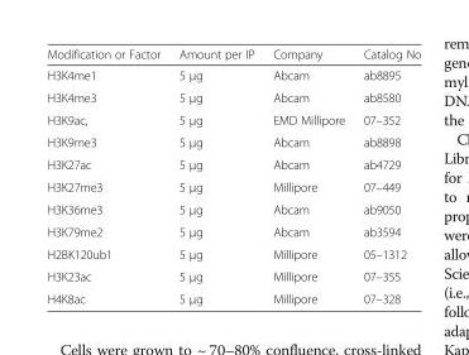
<table><thead><tr><td>Modification or Factor</td><td>Amount per IP</td><td>Company</td><td>Catalog No</td></tr></thead><tbody><tr><td>H3K4me1</td><td>5 μg</td><td>Abcam</td><td>ab8895</td></tr><tr><td>H3K4me3</td><td>5 μg</td><td>Abcam</td><td>ab8580</td></tr><tr><td>H3K9ac,</td><td>5 μg</td><td>EMD Millipore</td><td>07–352</td></tr><tr><td>H3K9me3</td><td>5 μg</td><td>Abcam</td><td>ab8898</td></tr><tr><td>H3K27ac</td><td>5 μg</td><td>Abcam</td><td>ab4729</td></tr><tr><td>H3K27me3</td><td>5 μg</td><td>Millipore</td><td>07–449</td></tr><tr><td>H3K36me3</td><td>5 μg</td><td>Abcam</td><td>ab9050</td></tr><tr><td>H3K79me2</td><td>5 μg</td><td>Abcam</td><td>ab3594</td></tr><tr><td>H2BK120ub1</td><td>5 μg</td><td>Millipore</td><td>05–1312</td></tr><tr><td>H3K23ac</td><td>5 μg</td><td>Millipore</td><td>07–355</td></tr><tr><td>H4K8ac</td><td>5 μg</td><td>Millipore</td><td>07–328</td></tr></tbody></table>